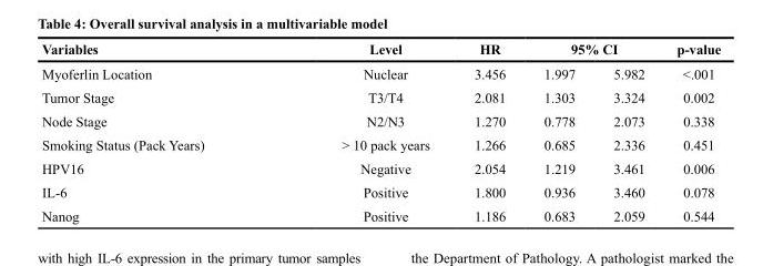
<table><thead><tr><td rowspan="2">Variables Myoferlin Location</td><td rowspan="2">Level Nuclear</td><td rowspan="2">HR 3.456</td><td colspan="2">95% CI</td><td rowspan="2">p-value &lt;.001</td></tr><tr><td>1.997</td><td>5.982</td></tr></thead><tbody><tr><td>Tumor Stage</td><td>T3/T4</td><td>2.081</td><td>1.303</td><td>3.324</td><td>0.002</td></tr><tr><td>Node Stage</td><td>N2/N3</td><td>1.270</td><td>0.778</td><td>2.073</td><td>0.338</td></tr><tr><td>Smoking Status (Pack Years)</td><td>&gt; 10 pack years</td><td>1.266</td><td>0.685</td><td>2.336</td><td>0.451</td></tr><tr><td>HPV16</td><td>Negative</td><td>2.054</td><td>1.219</td><td>3.461</td><td>0.006</td></tr><tr><td>IL-6</td><td>Positive</td><td>1.800</td><td>0.936</td><td>3.460</td><td>0.078</td></tr><tr><td>Nanog</td><td>Positive</td><td>1.186</td><td>0.683</td><td>2.059</td><td>0.544</td></tr></tbody></table>